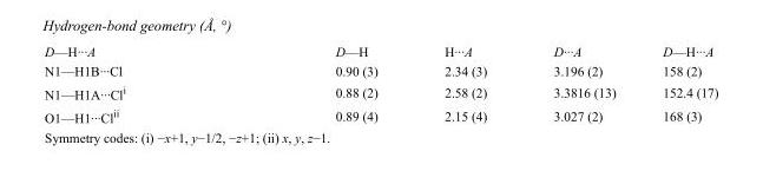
<table><tbody><tr><td>D—H···A</td><td>D—H</td><td>H···A</td><td>D···A</td><td>D—H···A</td></tr><tr><td>N1—H1B···Cl</td><td>0.90 (3)</td><td>2.34 (3)</td><td>3.196 (2)</td><td>158 (2)</td></tr><tr><td>N1—H1A···Cl<sup>i</sup></td><td>0.88 (2)</td><td>2.58 (2)</td><td>3.3816 (13)</td><td>152.4 (17)</td></tr><tr><td>O1—H1···Cl<sup>ii</sup></td><td>0.89 (4)</td><td>2.15 (4)</td><td>3.027 (2)</td><td>168 (3)</td></tr></tbody></table>